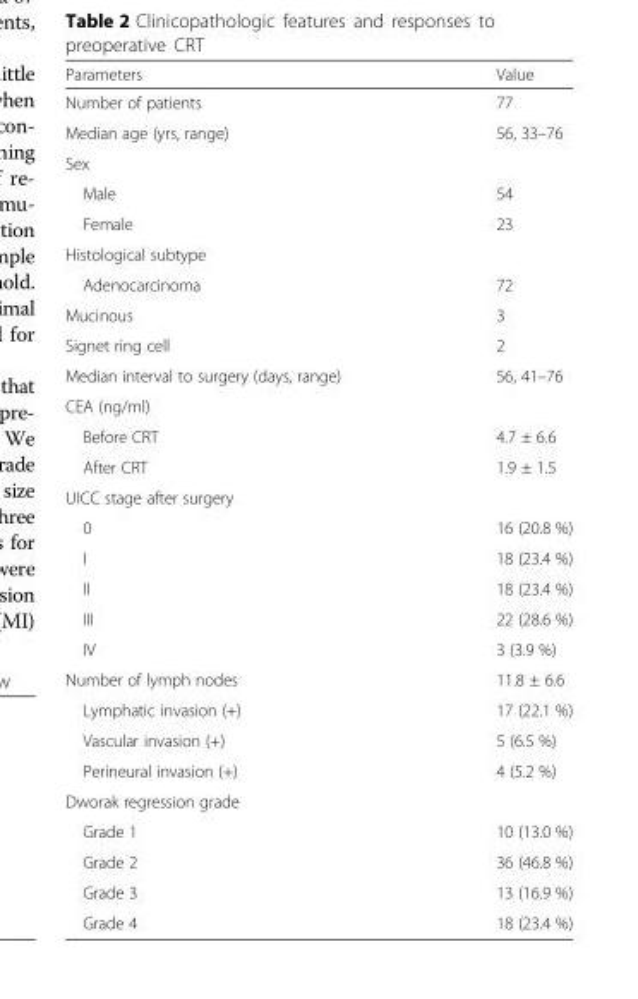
<table><thead><tr><td>Parameters</td><td>Value</td></tr></thead><tbody><tr><td>Number of patients</td><td>77</td></tr><tr><td>Median age (yrs, range)</td><td>56, 33–76</td></tr><tr><td colspan="2">Sex</td></tr><tr><td>Male</td><td>54</td></tr><tr><td>Female</td><td>23</td></tr><tr><td colspan="2">Histological subtype</td></tr><tr><td>Adenocarcinoma</td><td>72</td></tr><tr><td>Mucinous</td><td>3</td></tr><tr><td>Signet ring cell</td><td>2</td></tr><tr><td>Median interval to surgery (days, range)</td><td>56, 41–76</td></tr><tr><td colspan="2">CEA (ng/ml)</td></tr><tr><td>Before CRT</td><td>4.7 ± 6.6</td></tr><tr><td>After CRT</td><td>1.9 ± 1.5</td></tr><tr><td colspan="2">UICC stage after surgery</td></tr><tr><td>0</td><td>16 (20.8 %)</td></tr><tr><td>I</td><td>18 (23.4 %)</td></tr><tr><td>II</td><td>18 (23.4 %)</td></tr><tr><td>III</td><td>22 (28.6 %)</td></tr><tr><td>IV</td><td>3 (3.9 %)</td></tr><tr><td>Number of lymph nodes</td><td>11.8 ± 6.6</td></tr><tr><td>Lymphatic invasion (+)</td><td>17 (22.1 %)</td></tr><tr><td>Vascular invasion (+)</td><td>5 (6.5 %)</td></tr><tr><td>Perineural invasion (+)</td><td>4 (5.2 %)</td></tr><tr><td colspan="2">Dworak regression grade</td></tr><tr><td>Grade 1</td><td>10 (13.0 %)</td></tr><tr><td>Grade 2</td><td>36 (46.8 %)</td></tr><tr><td>Grade 3</td><td>13 (16.9 %)</td></tr><tr><td>Grade 4</td><td>18 (23.4 %)</td></tr></tbody></table>